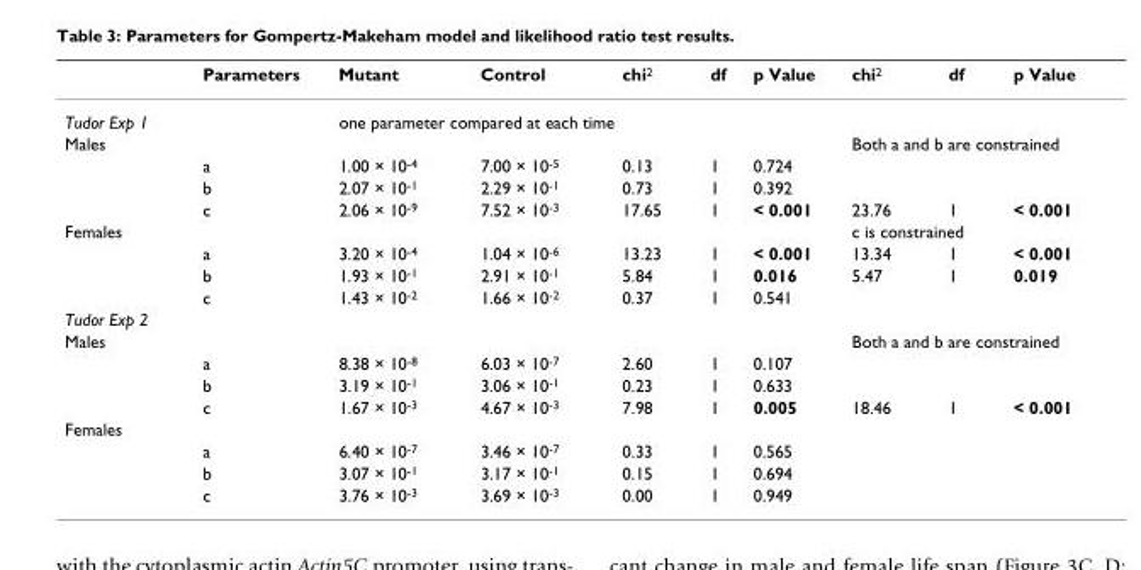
<table><thead><tr><td></td><td>Parameters</td><td>Mutant</td><td>Control</td><td>chi<sup>2</sup></td><td>df</td><td>p Value</td><td>chi<sup>2</sup></td><td>df</td><td>p Value</td></tr></thead><tbody><tr><td>Tudor Exp 1</td><td></td><td colspan="3">one parameter compared at each time</td><td></td><td></td><td></td><td></td><td></td></tr><tr><td rowspan="4">Males</td><td></td><td></td><td></td><td></td><td></td><td></td><td colspan="3">Both a and b are constrained</td></tr><tr><td>a</td><td>1.00 × 10<sup>-4</sup></td><td>7.00 × 10<sup>-5</sup></td><td>0.13</td><td>1</td><td>0.724</td><td></td><td></td><td></td></tr><tr><td>b</td><td>2.07 × 10<sup>-1</sup></td><td>2.29 × 10<sup>-1</sup></td><td>0.73</td><td>1</td><td>0.392</td><td></td><td></td><td></td></tr><tr><td>c</td><td>2.06 × 10<sup>-9</sup></td><td>7.52 × 10<sup>-3</sup></td><td>17.65</td><td>1</td><td>&lt; 0.001</td><td>23.76</td><td>1</td><td>&lt; 0.001</td></tr><tr><td rowspan="4">Females</td><td></td><td></td><td></td><td></td><td></td><td></td><td colspan="3">c is constrained</td></tr><tr><td>a</td><td>3.20 × 10<sup>-4</sup></td><td>1.04 × 10<sup>-6</sup></td><td>13.23</td><td>1</td><td>&lt; 0.001</td><td>13.34</td><td>1</td><td>&lt; 0.001</td></tr><tr><td>b</td><td>1.93 × 10<sup>-1</sup></td><td>2.91 × 10<sup>-1</sup></td><td>5.84</td><td>1</td><td>0.016</td><td>5.47</td><td>1</td><td>0.019</td></tr><tr><td>c</td><td>1.43 × 10<sup>-2</sup></td><td>1.66 × 10<sup>-2</sup></td><td>0.37</td><td>1</td><td>0.541</td><td></td><td></td><td></td></tr><tr><td colspan="10">Tudor Exp 2</td></tr><tr><td rowspan="4">Males</td><td></td><td></td><td></td><td></td><td></td><td></td><td colspan="3">Both a and b are constrained</td></tr><tr><td>a</td><td>8.38 × 10<sup>-8</sup></td><td>6.03 × 10<sup>-7</sup></td><td>2.60</td><td>1</td><td>0.107</td><td></td><td></td><td></td></tr><tr><td>b</td><td>3.19 × 10<sup>-1</sup></td><td>3.06 × 10<sup>-1</sup></td><td>0.23</td><td>1</td><td>0.633</td><td></td><td></td><td></td></tr><tr><td>c</td><td>1.67 × 10<sup>-3</sup></td><td>4.67 × 10<sup>-3</sup></td><td>7.98</td><td>1</td><td>0.005</td><td>18.46</td><td>1</td><td>&lt; 0.001</td></tr><tr><td colspan="10">Females</td></tr><tr><td></td><td>a</td><td>6.40 × 10<sup>-7</sup></td><td>3.46 × 10<sup>-7</sup></td><td>0.33</td><td>1</td><td>0.565</td><td></td><td></td><td></td></tr><tr><td></td><td>b</td><td>3.07 × 10<sup>-1</sup></td><td>3.17 × 10<sup>-1</sup></td><td>0.15</td><td>1</td><td>0.694</td><td></td><td></td><td></td></tr><tr><td></td><td>c</td><td>3.76 × 10<sup>-3</sup></td><td>3.69 × 10<sup>-3</sup></td><td>0.00</td><td>1</td><td>0.949</td><td></td><td></td><td></td></tr></tbody></table>